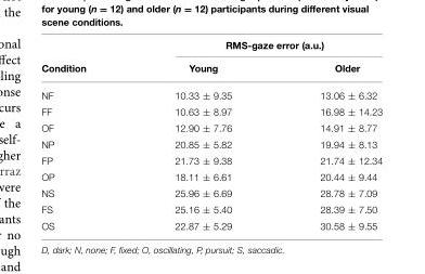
<table><thead><tr><td rowspan="2">Condition</td><td colspan="2">RMS-gaze error (a.u.)</td></tr><tr><td>Young</td><td>Older</td></tr></thead><tbody><tr><td>NF</td><td>10.33 ± 9.35</td><td>13.06 ± 6.32</td></tr><tr><td>FF</td><td>10.63 ± 8.97</td><td>16.98 ± 14.23</td></tr><tr><td>OF</td><td>12.90 ± 7.76</td><td>14.91 ± 8.77</td></tr><tr><td>NP</td><td>20.85 ± 5.82</td><td>19.94 ± 8.13</td></tr><tr><td>FP</td><td>21.73 ± 9.38</td><td>21.74 ± 12.34</td></tr><tr><td>OP</td><td>18.11 ± 6.61</td><td>20.44 ± 9.44</td></tr><tr><td>NS</td><td>25.96 ± 6.69</td><td>28.78 ± 7.09</td></tr><tr><td>FS</td><td>25.16 ± 5.40</td><td>28.39 ± 7.50</td></tr><tr><td>OS</td><td>22.87 ± 5.29</td><td>30.58 ± 9.55</td></tr></tbody></table>